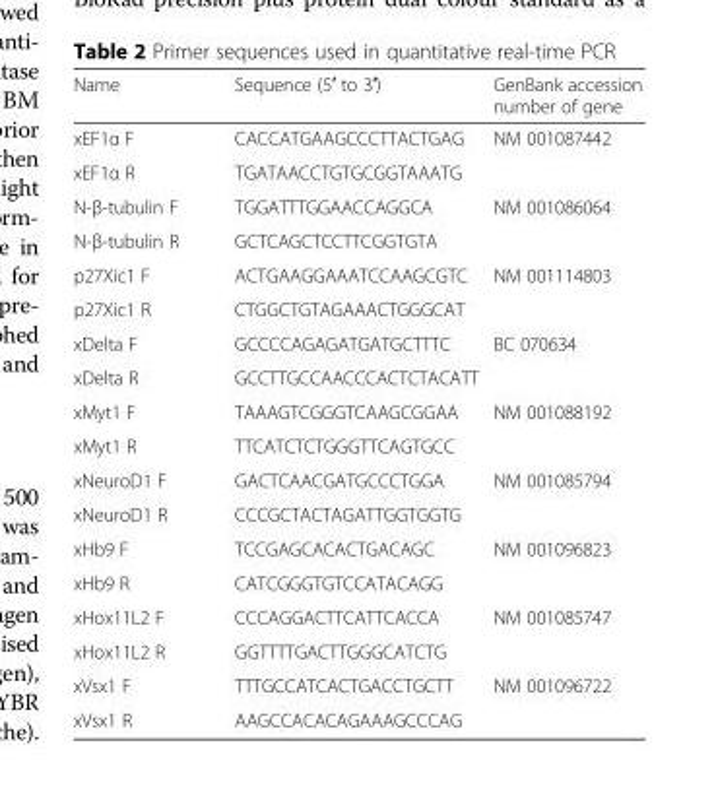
<table><thead><tr><td>Name</td><td>Sequence (5′ to 3′)</td><td>GenBank accession number of gene</td></tr></thead><tbody><tr><td>xEF1α F</td><td>CACCATGAAGCCCTTACTGAG</td><td rowspan="2">NM 001087442</td></tr><tr><td>xEF1α R</td><td>TGATAACCTGTGCGGTAAATG</td></tr><tr><td>N-β-tubulin F</td><td>TGGATTTGGAACCAGGCA</td><td rowspan="2">NM 001086064</td></tr><tr><td>N-β-tubulin R</td><td>GCTCAGCTCCTTCGGTGTA</td></tr><tr><td>p27Xic1 F</td><td>ACTGAAGGAAATCCAAGCGTC</td><td rowspan="2">NM 001114803</td></tr><tr><td>p27Xic1 R</td><td>CTGGCTGTAGAAACTGGGCAT</td></tr><tr><td>xDelta F</td><td>GCCCCAGAGATGATGCTTTC</td><td rowspan="2">BC 070634</td></tr><tr><td>xDelta R</td><td>GCCTTGCCAACCCACTCTACATT</td></tr><tr><td>xMyt1 F</td><td>TAAAGTCGGGTCAAGCGGAA</td><td rowspan="2">NM 001088192</td></tr><tr><td>xMyt1 R</td><td>TTCATCTCTGGGTTCAGTGCC</td></tr><tr><td>xNeuroD1 F</td><td>GACTCAACGATGCCCTGGA</td><td rowspan="2">NM 001085794</td></tr><tr><td>xNeuroD1 R</td><td>CCCGCTACTAGATTGGTGGTG</td></tr><tr><td>xHb9 F</td><td>TCCGAGCACACTGACAGC</td><td rowspan="2">NM 001096823</td></tr><tr><td>xHb9 R</td><td>CATCGGGTGTCCATACAGG</td></tr><tr><td>xHox11L2 F</td><td>CCCAGGACTTCATTCACCA</td><td rowspan="2">NM 001085747</td></tr><tr><td>xHox11L2 R</td><td>GGTTTTGACTTGGGCATCTG</td></tr><tr><td>xVsx1 F</td><td>TTTGCCATCACTGACCTGCTT</td><td rowspan="2">NM 001096722</td></tr><tr><td>xVsx1 R</td><td>AAGCCACACAGAAAGCCCAG</td></tr></tbody></table>